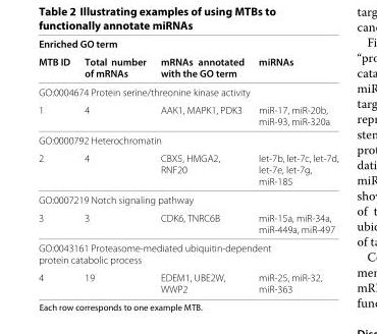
<table><thead><tr><td colspan="4">Enriched GO term</td></tr><tr><td>MTB ID</td><td>Total number of mRNAs</td><td>mRNAs annotated with the GO term</td><td>miRNAs</td></tr></thead><tbody><tr><td colspan="4">GO:0004674 Protein serine/threonine kinase activity</td></tr><tr><td>1</td><td>4</td><td>AAK1, MAPK1, PDK3</td><td>miR-17, miR-20b, miR-93, miR-320a</td></tr><tr><td colspan="4">GO:0000792 Heterochromatin</td></tr><tr><td>2</td><td>4</td><td>CBX5, HMGA2, RNF20</td><td>let-7b, let-7c, let-7d, let-7e, let-7g, miR-185</td></tr><tr><td colspan="4">GO:0007219 Notch signaling pathway</td></tr><tr><td>3</td><td>3</td><td>CDK6, TNRC6B</td><td>miR-15a, miR-34a, miR-449a, miR-497</td></tr><tr><td colspan="4">GO:0043161 Proteasome-mediated ubiquitin-dependent</td></tr><tr><td colspan="4">protein catabolic process</td></tr><tr><td>4</td><td>19</td><td>EDEM1, UBE2W, WWP2</td><td>miR-25, miR-32, miR-363</td></tr></tbody></table>